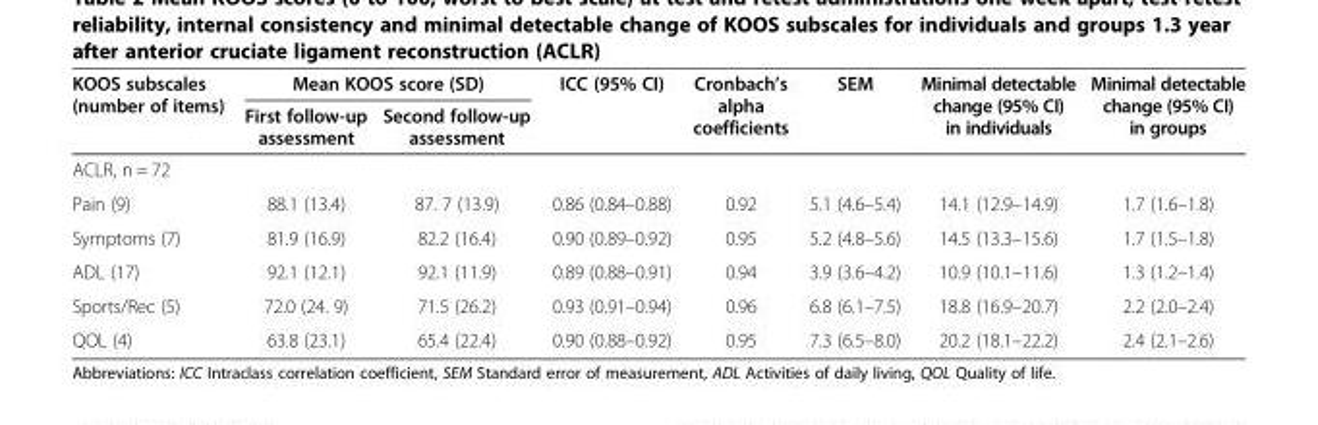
<table><thead><tr><td rowspan="2">KOOS subscales (number of items)</td><td colspan="2">Mean KOOS score (SD)</td><td rowspan="2">ICC (95% CI)</td><td rowspan="2">Cronbach’s alpha coefficients</td><td rowspan="2">SEM</td><td rowspan="2">Minimal detectable change (95% CI) in individuals</td><td rowspan="2">Minimal detectable change (95% CI) in groups</td></tr><tr><td>First follow-up assessment</td><td>Second follow-up assessment</td></tr></thead><tbody><tr><td colspan="8">ACLR, n = 72</td></tr><tr><td>Pain (9)</td><td>88.1 (13.4)</td><td>87. 7 (13.9)</td><td>0.86 (0.84–0.88)</td><td>0.92</td><td>5.1 (4.6–5.4)</td><td>14.1 (12.9–14.9)</td><td>1.7 (1.6–1.8)</td></tr><tr><td>Symptoms (7)</td><td>81.9 (16.9)</td><td>82.2 (16.4)</td><td>0.90 (0.89–0.92)</td><td>0.95</td><td>5.2 (4.8–5.6)</td><td>14.5 (13.3–15.6)</td><td>1.7 (1.5–1.8)</td></tr><tr><td>ADL (17)</td><td>92.1 (12.1)</td><td>92.1 (11.9)</td><td>0.89 (0.88–0.91)</td><td>0.94</td><td>3.9 (3.6–4.2)</td><td>10.9 (10.1–11.6)</td><td>1.3 (1.2–1.4)</td></tr><tr><td>Sports/Rec (5)</td><td>72.0 (24. 9)</td><td>71.5 (26.2)</td><td>0.93 (0.91–0.94)</td><td>0.96</td><td>6.8 (6.1–7.5)</td><td>18.8 (16.9–20.7)</td><td>2.2 (2.0–2.4)</td></tr><tr><td>QOL (4)</td><td>63.8 (23.1)</td><td>65.4 (22.4)</td><td>0.90 (0.88–0.92)</td><td>0.95</td><td>7.3 (6.5–8.0)</td><td>20.2 (18.1–22.2)</td><td>2.4 (2.1–2.6)</td></tr></tbody></table>